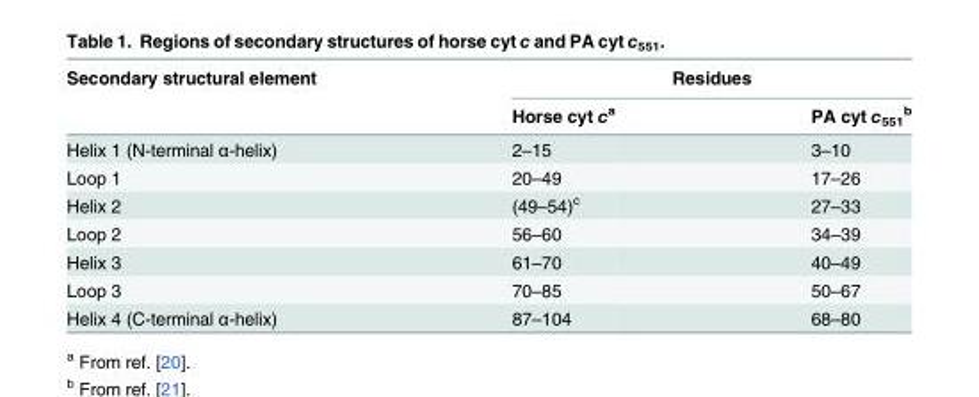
<table><thead><tr><td rowspan="2">Secondary structural element</td><td colspan="2">Residues</td></tr><tr><td>Horse cyt c<sup>a</sup></td><td>PA cyt c<sub>551</sub> <sup>b</sup></td></tr></thead><tbody><tr><td>Helix 1 (N-terminal α-helix)</td><td>2–15</td><td>3–10</td></tr><tr><td>Loop 1</td><td>20–49</td><td>17–26</td></tr><tr><td>Helix 2</td><td>(49–54)<sup>c</sup></td><td>27–33</td></tr><tr><td>Loop 2</td><td>56–60</td><td>34–39</td></tr><tr><td>Helix 3</td><td>61–70</td><td>40–49</td></tr><tr><td>Loop 3</td><td>70–85</td><td>50–67</td></tr><tr><td>Helix 4 (C-terminal α-helix)</td><td>87–104</td><td>68–80</td></tr></tbody></table>